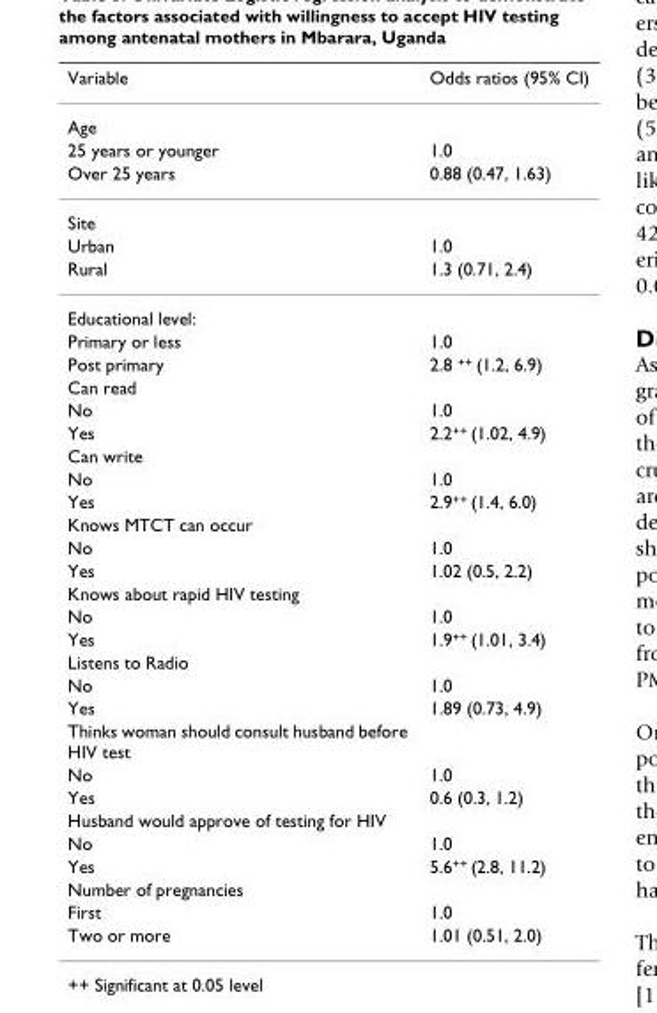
<table><thead><tr><td>Variable</td><td>Odds ratios (95% CI)</td></tr></thead><tbody><tr><td colspan="2">Age</td></tr><tr><td>25 years or younger</td><td>1.0</td></tr><tr><td>Over 25 years</td><td>0.88 (0.47, 1.63)</td></tr><tr><td colspan="2">Site</td></tr><tr><td>Urban</td><td>1.0</td></tr><tr><td>Rural</td><td>1.3 (0.71, 2.4)</td></tr><tr><td colspan="2">Educational level:</td></tr><tr><td>Primary or less</td><td>1.0</td></tr><tr><td>Post primary</td><td>2.8 <sup>++</sup> (1.2, 6.9)</td></tr><tr><td colspan="2">Can read</td></tr><tr><td>No</td><td>1.0</td></tr><tr><td>Yes</td><td>2.2<sup>++</sup> (1.02, 4.9)</td></tr><tr><td colspan="2">Can write</td></tr><tr><td>No</td><td>1.0</td></tr><tr><td>Yes</td><td>2.9<sup>++</sup> (1.4, 6.0)</td></tr><tr><td colspan="2">Knows MTCT can occur</td></tr><tr><td>No</td><td>1.0</td></tr><tr><td>Yes</td><td>1.02 (0.5, 2.2)</td></tr><tr><td colspan="2">Knows about rapid HIV testing</td></tr><tr><td>No</td><td>1.0</td></tr><tr><td>Yes</td><td>1.9<sup>++</sup> (1.01, 3.4)</td></tr><tr><td colspan="2">Listens to Radio</td></tr><tr><td>No</td><td>1.0</td></tr><tr><td>Yes</td><td>1.89 (0.73, 4.9)</td></tr><tr><td colspan="2">Thinks woman should consult husband before HIV test</td></tr><tr><td>No</td><td>1.0</td></tr><tr><td>Yes</td><td>0.6 (0.3, 1.2)</td></tr><tr><td colspan="2">Husband would approve of testing for HIV</td></tr><tr><td>No</td><td>1.0</td></tr><tr><td>Yes</td><td>5.6<sup>++</sup> (2.8, 11.2)</td></tr><tr><td colspan="2">Number of pregnancies</td></tr><tr><td>First</td><td>1.0</td></tr><tr><td>Two or more</td><td>1.01 (0.51, 2.0)</td></tr></tbody></table>